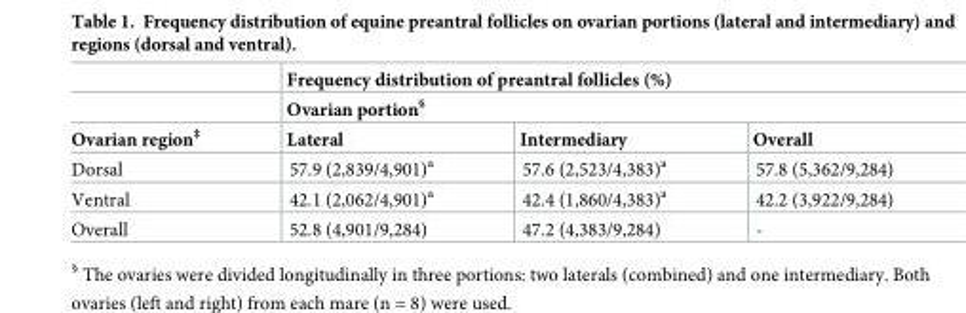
<table><thead><tr><td rowspan="3">Ovarian region<sup>‡</sup></td><td rowspan="2" colspan="3">Frequency distribution of preantral follicles (%) Ovarian portion<sup>§</sup></td></tr><tr></tr><tr><td>Lateral</td><td>Intermediary</td><td>Overall</td></tr></thead><tbody><tr><td>Dorsal</td><td>57.9 (2,839/4,901)<sup>a</sup></td><td>57.6 (2,523/4,383)<sup>a</sup></td><td>57.8 (5,362/9,284)</td></tr><tr><td>Ventral</td><td>42.1 (2,062/4,901)<sup>a</sup></td><td>42.4 (1,860/4,383)<sup>a</sup></td><td>42.2 (3,922/9,284)</td></tr><tr><td>Overall</td><td>52.8 (4,901/9,284)</td><td>47.2 (4,383/9,284)</td><td>-</td></tr></tbody></table>